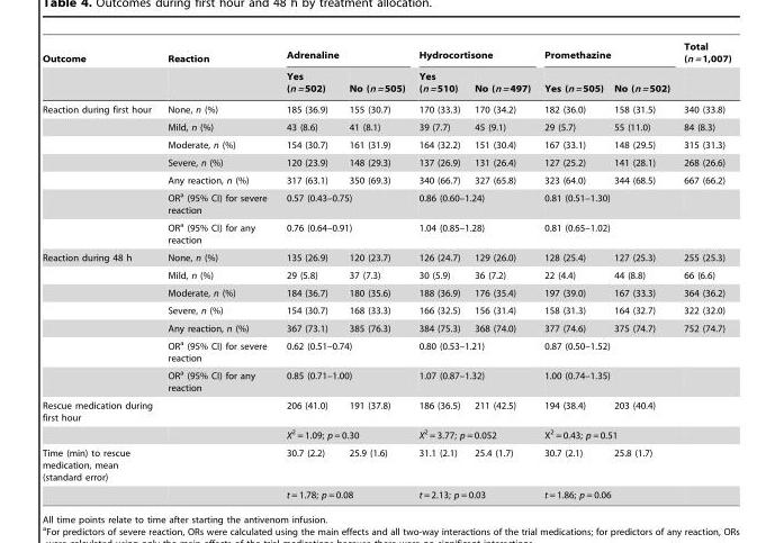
<table><thead><tr><td rowspan="2">Outcome</td><td rowspan="2">Reaction</td><td colspan="2">Adrenaline</td><td colspan="2">Hydrocortisone</td><td colspan="2">Promethazine</td><td rowspan="2">Total (n = 1,007)</td></tr><tr><td>Yes (n = 502)</td><td>No (n = 505)</td><td>Yes (n = 510)</td><td>No (n = 497)</td><td>Yes (n = 505)</td><td>No (n = 502)</td></tr></thead><tbody><tr><td rowspan="7">Reaction during first hour</td><td>None, n (%)</td><td>185 (36.9)</td><td>155 (30.7)</td><td>170 (33.3)</td><td>170 (34.2)</td><td>182 (36.0)</td><td>158 (31.5)</td><td>340 (33.8)</td></tr><tr><td>Mild, n (%)</td><td>43 (8.6)</td><td>41 (8.1)</td><td>39 (7.7)</td><td>45 (9.1)</td><td>29 (5.7)</td><td>55 (11.0)</td><td>84 (8.3)</td></tr><tr><td>Moderate, n (%)</td><td>154 (30.7)</td><td>161 (31.9)</td><td>164 (32.2)</td><td>151 (30.4)</td><td>167 (33.1)</td><td>148 (29.5)</td><td>315 (31.3)</td></tr><tr><td>Severe, n (%)</td><td>120 (23.9)</td><td>148 (29.3)</td><td>137 (26.9)</td><td>131 (26.4)</td><td>127 (25.2)</td><td>141 (28.1)</td><td>268 (26.6)</td></tr><tr><td>Any reaction, n (%)</td><td>317 (63.1)</td><td>350 (69.3)</td><td>340 (66.7)</td><td>327 (65.8)</td><td>323 (64.0)</td><td>344 (68.5)</td><td>667 (66.2)</td></tr><tr><td>OR<sup>a</sup> (95% CI) for severe reaction</td><td colspan="2">0.57 (0.43–0.75)</td><td colspan="2">0.86 (0.60–1.24)</td><td colspan="2">0.81 (0.51–1.30)</td><td></td></tr><tr><td>OR<sup>a</sup> (95% CI) for any reaction</td><td colspan="2">0.76 (0.64–0.91)</td><td colspan="2">1.04 (0.85–1.28)</td><td colspan="2">0.81 (0.65–1.02)</td><td></td></tr><tr><td rowspan="7">Reaction during 48 h</td><td>None, n (%)</td><td>135 (26.9)</td><td>120 (23.7)</td><td>126 (24.7)</td><td>129 (26.0)</td><td>128 (25.4)</td><td>127 (25.3)</td><td>255 (25.3)</td></tr><tr><td>Mild, n (%)</td><td>29 (5.8)</td><td>37 (7.3)</td><td>30 (5.9)</td><td>36 (7.2)</td><td>22 (4.4)</td><td>44 (8.8)</td><td>66 (6.6)</td></tr><tr><td>Moderate, n (%)</td><td>184 (36.7)</td><td>180 (35.6)</td><td>188 (36.9)</td><td>176 (35.4)</td><td>197 (39.0)</td><td>167 (33.3)</td><td>364 (36.2)</td></tr><tr><td>Severe, n (%)</td><td>154 (30.7)</td><td>168 (33.3)</td><td>166 (32.5)</td><td>156 (31.4)</td><td>158 (31.3)</td><td>164 (32.7)</td><td>322 (32.0)</td></tr><tr><td>Any reaction, n (%)</td><td>367 (73.1)</td><td>385 (76.3)</td><td>384 (75.3)</td><td>368 (74.0)</td><td>377 (74.6)</td><td>375 (74.7)</td><td>752 (74.7)</td></tr><tr><td>OR<sup>a</sup> (95% CI) for severe reaction</td><td colspan="2">0.62 (0.51–0.74)</td><td colspan="2">0.80 (0.53–1.21)</td><td colspan="2">0.87 (0.50–1.52)</td><td></td></tr><tr><td>OR<sup>a</sup> (95% CI) for any reaction</td><td colspan="2">0.85 (0.71–1.00)</td><td colspan="2">1.07 (0.87–1.32)</td><td colspan="2">1.00 (0.74–1.35)</td><td></td></tr><tr><td rowspan="2">Rescue medication during first hour</td><td></td><td>206 (41.0)</td><td>191 (37.8)</td><td>186 (36.5)</td><td>211 (42.5)</td><td>194 (38.4)</td><td>203 (40.4)</td><td></td></tr><tr><td></td><td colspan="2">X<sup>2</sup> = 1.09; p = 0.30</td><td colspan="2">X<sup>2</sup> = 3.77; p = 0.052</td><td colspan="2">X<sup>2</sup> = 0.43; p = 0.51</td><td></td></tr><tr><td rowspan="2">Time (min) to rescue medication, mean (standard error)</td><td></td><td>30.7 (2.2)</td><td>25.9 (1.6)</td><td>31.1 (2.1)</td><td>25.4 (1.7)</td><td>30.7 (2.1)</td><td>25.8 (1.7)</td><td></td></tr><tr><td></td><td colspan="2">t = 1.78; p = 0.08</td><td colspan="2">t = 2.13; p = 0.03</td><td colspan="2">t = 1.86; p = 0.06</td><td></td></tr></tbody></table>